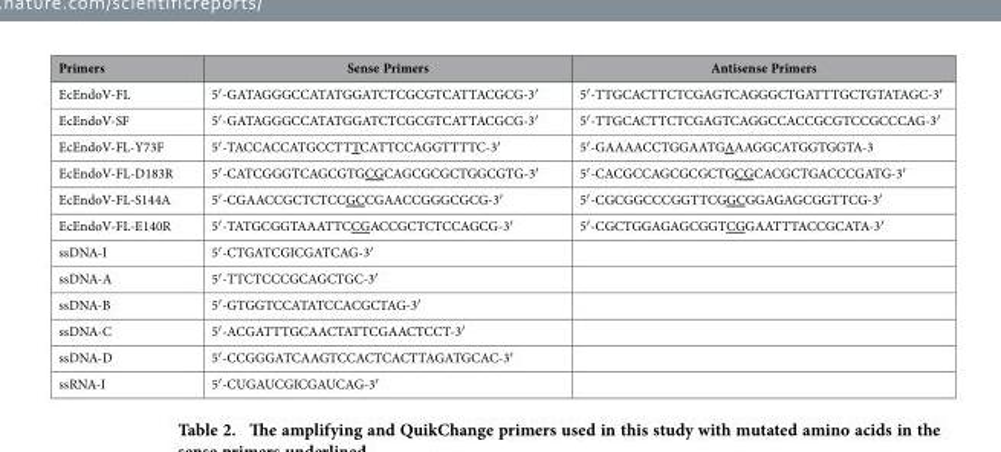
<table><thead><tr><td>Primers</td><td>Sense Primers</td><td>Antisense Primers</td></tr></thead><tbody><tr><td>EcEndoV-FL</td><td>5′ -GATAGGGCCATATGGATCTCGCGTCATTACGCG-3′</td><td>5′ -TTGCACTTCTCGAGTCAGGGCTGATTTGCTGTATAGC-3′</td></tr><tr><td>EcEndoV-SF</td><td>5′ -GATAGGGCCATATGGATCTCGCGTCATTACGCG-3′</td><td>5′ -TTGCACTTCTCGAGTCAGGCCACCGCGTCCGCCCAG-3′</td></tr><tr><td>EcEndoV-FL-Y73F</td><td>5′ -TACCACCATGCCTTTCATTCCAGGTTTTC-3′</td><td>5′ -GAAAACCTGGAATGAAAGGCATGGTGGTA-3</td></tr><tr><td>EcEndoV-FL-D183R</td><td>5′ -CATCGGGTCAGCGTGCGCAGCGCGCTGGCGTG-3′</td><td>5′ -CACGCCAGCGCGCTGCGCACGCTGACCCGATG-3′</td></tr><tr><td>EcEndoV-FL-S144A</td><td>5′ -CGAACCGCTCTCCGCCGAACCGGGCGCG-3′</td><td>5′ -CGCGGCCCGGTTCGGCGGAGAGCGGTTCG-3′</td></tr><tr><td>EcEndoV-FL-E140R</td><td>5′ -TATGCGGTAAATTCCGACCGCTCTCCAGCG-3′</td><td>5′ -CGCTGGAGAGCGGTCGGAATTTACCGCATA-3′</td></tr><tr><td>ssDNA-I</td><td>5′ -CTGATCGICGATCAG-3′</td><td></td></tr><tr><td>ssDNA-A</td><td>5′ -TTCTCCCGCAGCTGC-3′</td><td></td></tr><tr><td>ssDNA-B</td><td>5′ -GTGGTCCATATCCACGCTAG-3′</td><td></td></tr><tr><td>ssDNA-C</td><td>5′ -ACGATTTGCAACTATTCGAACTCCT-3′</td><td></td></tr><tr><td>ssDNA-D</td><td>5′ -CCGGGATCAAGTCCACTCACTTAGATGCAC-3′</td><td></td></tr><tr><td>ssRNA-I</td><td>5′ -CUGAUCGICGAUCAG-3′</td><td></td></tr></tbody></table>